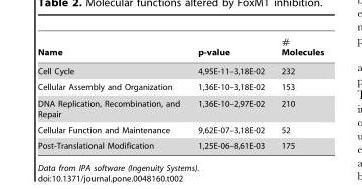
<table><thead><tr><td>Name</td><td>p-value</td><td># Molecules</td></tr></thead><tbody><tr><td>Cell Cycle</td><td>4,95E-11–3,18E-02</td><td>232</td></tr><tr><td>Cellular Assembly and Organization</td><td>1,36E-10–3,18E-02</td><td>153</td></tr><tr><td>DNA Replication, Recombination, and Repair</td><td>1,36E-10–2,97E-02</td><td>210</td></tr><tr><td>Cellular Function and Maintenance</td><td>9,62E-07–3,18E-02</td><td>52</td></tr><tr><td>Post-Translational Modification</td><td>1,25E-06–8,61E-03</td><td>175</td></tr></tbody></table>